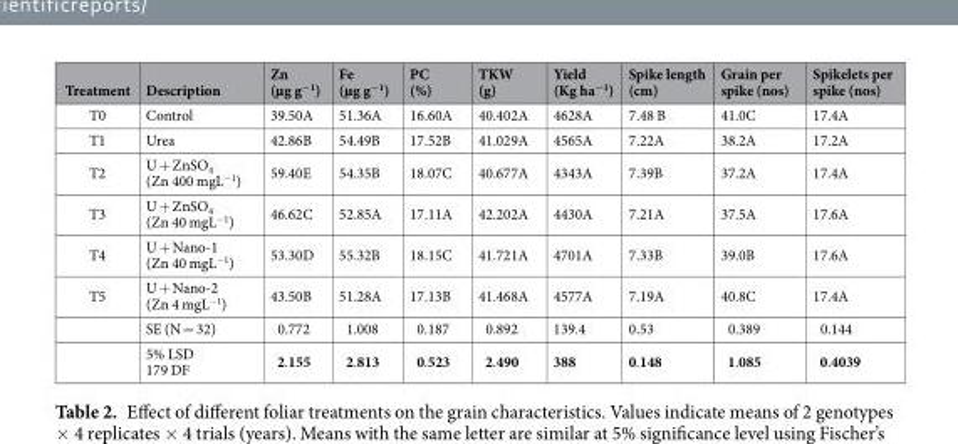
<table><thead><tr><td>Treatment</td><td>Description</td><td>Zn (µg g<sup>−1</sup>)</td><td>Fe (µg g<sup>−1</sup>)</td><td>PC (%)</td><td>TKW (g)</td><td>Yield (Kg ha<sup>−1</sup>)</td><td>Spike length (cm)</td><td>Grain per spike (nos)</td><td>Spikelets per spike (nos)</td></tr></thead><tbody><tr><td>T0</td><td>Control</td><td>39.50A</td><td>51.36A</td><td>16.60A</td><td>40.402A</td><td>4628A</td><td>7.48 B</td><td>41.0C</td><td>17.4A</td></tr><tr><td>T1</td><td>Urea</td><td>42.86B</td><td>54.49B</td><td>17.52B</td><td>41.029A</td><td>4565A</td><td>7.22A</td><td>38.2A</td><td>17.2A</td></tr><tr><td>T2</td><td>U + ZnSO<sub>4</sub> (Zn 400 mgL<sup>−1</sup>)</td><td>59.40E</td><td>54.35B</td><td>18.07C</td><td>40.677A</td><td>4343A</td><td>7.39B</td><td>37.2A</td><td>17.4A</td></tr><tr><td>T3</td><td>U + ZnSO<sub>4</sub> (Zn 40 mgL<sup>−1</sup>)</td><td>46.62C</td><td>52.85A</td><td>17.11A</td><td>42.202A</td><td>4430A</td><td>7.21A</td><td>37.5A</td><td>17.6A</td></tr><tr><td>T4</td><td>U + Nano-1 (Zn 40 mgL<sup>−1</sup>)</td><td>53.30D</td><td>55.32B</td><td>18.15C</td><td>41.721A</td><td>4701A</td><td>7.33B</td><td>39.0B</td><td>17.6A</td></tr><tr><td rowspan="3">T5</td><td>U + Nano-2 (Zn 4 mgL<sup>−1</sup>)</td><td>43.50B</td><td>51.28A</td><td>17.13B</td><td>41.468A</td><td>4577A</td><td>7.19A</td><td>40.8C</td><td>17.4A</td></tr><tr><td>SE (N = 32)</td><td>0.772</td><td>1.008</td><td>0.187</td><td>0.892</td><td>139.4</td><td>0.53</td><td>0.389</td><td>0.144</td></tr><tr><td>5% LSD 179 DF</td><td>2.155</td><td>2.813</td><td>0.523</td><td>2.490</td><td>388</td><td>0.148</td><td>1.085</td><td>0.4039</td></tr></tbody></table>